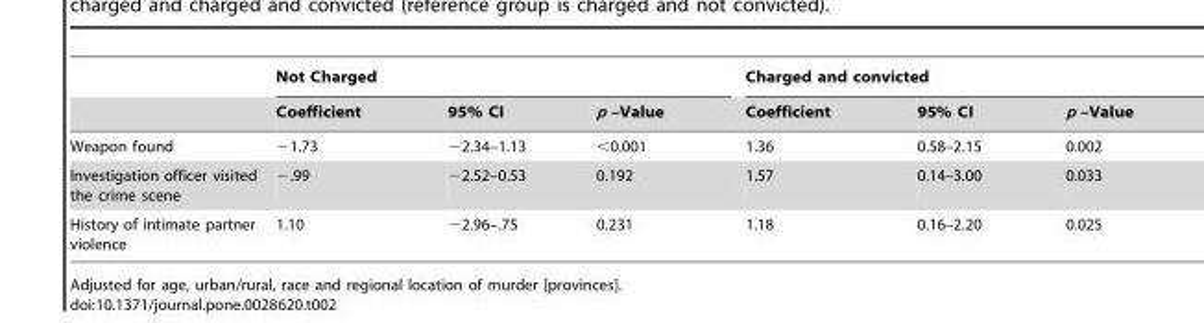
<table><thead><tr><td rowspan="2"></td><td colspan="3">Not Charged</td><td colspan="3">Charged and convicted</td></tr><tr><td>Coefficient</td><td>95% CI</td><td>p –Value</td><td>Coefficient</td><td>95% CI</td><td>p –Value</td></tr></thead><tbody><tr><td>Weapon found</td><td>−1.73</td><td>−2.34–1.13</td><td>&lt;0.001</td><td>1.36</td><td>0.58–2.15</td><td>0.002</td></tr><tr><td>Investigation officer visited the crime scene</td><td>−.99</td><td>−2.52–0.53</td><td>0.192</td><td>1.57</td><td>0.14–3.00</td><td>0.033</td></tr><tr><td>History of intimate partner violence</td><td>1.10</td><td>−2.96–.75</td><td>0.231</td><td>1.18</td><td>0.16–2.20</td><td>0.025</td></tr></tbody></table>